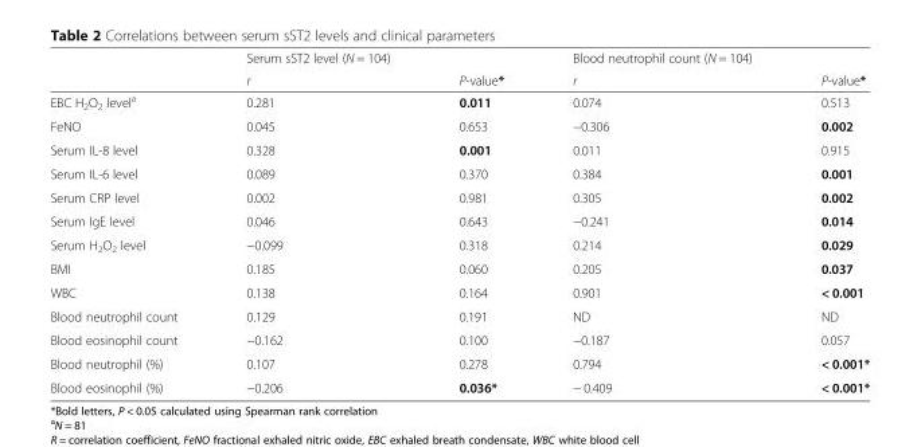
<table><thead><tr><td rowspan="2"></td><td rowspan="2">Serum sST2 level (N = 104) r</td><td rowspan="2">P-value*</td><td rowspan="2">Blood neutrophil count (N = 104) r</td><td rowspan="2">P-value*</td></tr><tr></tr></thead><tbody><tr><td>EBC H<sub>2</sub>O<sub>2</sub> level<sup>a</sup></td><td>0.281</td><td>0.011</td><td>0.074</td><td>0.513</td></tr><tr><td>FeNO</td><td>0.045</td><td>0.653</td><td>−0.306</td><td>0.002</td></tr><tr><td>Serum IL-8 level</td><td>0.328</td><td>0.001</td><td>0.011</td><td>0.915</td></tr><tr><td>Serum IL-6 level</td><td>0.089</td><td>0.370</td><td>0.384</td><td>0.001</td></tr><tr><td>Serum CRP level</td><td>0.002</td><td>0.981</td><td>0.305</td><td>0.002</td></tr><tr><td>Serum IgE level</td><td>0.046</td><td>0.643</td><td>−0.241</td><td>0.014</td></tr><tr><td>Serum H<sub>2</sub>O<sub>2</sub> level</td><td>−0.099</td><td>0.318</td><td>0.214</td><td>0.029</td></tr><tr><td>BMI</td><td>0.185</td><td>0.060</td><td>0.205</td><td>0.037</td></tr><tr><td>WBC</td><td>0.138</td><td>0.164</td><td>0.901</td><td>&lt; 0.001</td></tr><tr><td>Blood neutrophil count</td><td>0.129</td><td>0.191</td><td>ND</td><td>ND</td></tr><tr><td>Blood eosinophil count</td><td>−0.162</td><td>0.100</td><td>−0.187</td><td>0.057</td></tr><tr><td>Blood neutrophil (%)</td><td>0.107</td><td>0.278</td><td>0.794</td><td>&lt; 0.001*</td></tr><tr><td>Blood eosinophil (%)</td><td>−0.206</td><td>0.036*</td><td>− 0.409</td><td>&lt; 0.001*</td></tr></tbody></table>